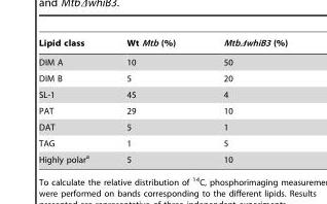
<table><thead><tr><td>Lipid class</td><td>Wt Mtb (%)</td><td>MtbΔwhiB3 (%)</td></tr></thead><tbody><tr><td>DIM A</td><td>10</td><td>50</td></tr><tr><td>DIM B</td><td>5</td><td>20</td></tr><tr><td>SL-1</td><td>45</td><td>4</td></tr><tr><td>PAT</td><td>29</td><td>10</td></tr><tr><td>DAT</td><td>5</td><td>1</td></tr><tr><td>TAG</td><td>1</td><td>5</td></tr><tr><td>Highly polar<sup>a</sup></td><td>5</td><td>10</td></tr></tbody></table>